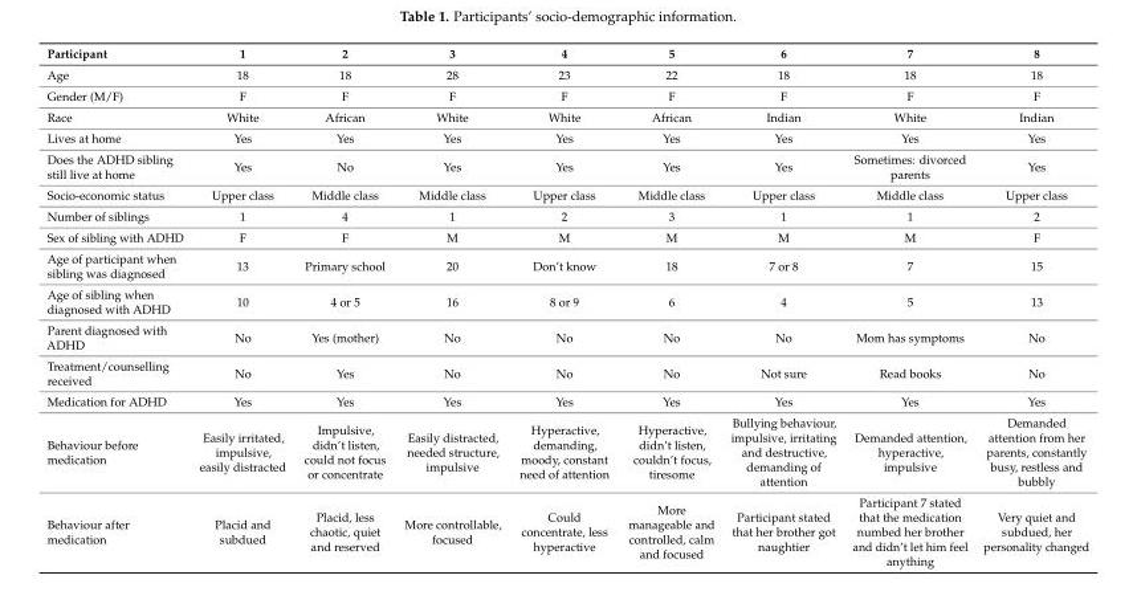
<table><thead><tr><td>Participant</td><td>1</td><td>2</td><td>3</td><td>4</td><td>5</td><td>6</td><td>7</td><td>8</td></tr></thead><tbody><tr><td>Age</td><td>18</td><td>18</td><td>28</td><td>23</td><td>22</td><td>18</td><td>18</td><td>18</td></tr><tr><td>Gender (M/F)</td><td>F</td><td>F</td><td>F</td><td>F</td><td>F</td><td>F</td><td>F</td><td>F</td></tr><tr><td>Race</td><td>White</td><td>African</td><td>White</td><td>White</td><td>African</td><td>Indian</td><td>White</td><td>Indian</td></tr><tr><td>Lives at home</td><td>Yes</td><td>Yes</td><td>Yes</td><td>Yes</td><td>Yes</td><td>Yes</td><td>Yes</td><td>Yes</td></tr><tr><td>Does the ADHD sibling still live at home</td><td>Yes</td><td>No</td><td>Yes</td><td>Yes</td><td>Yes</td><td>Yes</td><td>Sometimes: divorced parents</td><td>Yes</td></tr><tr><td>Socio-economic status</td><td>Upper class</td><td>Middle class</td><td>Middle class</td><td>Upper class</td><td>Middle class</td><td>Upper class</td><td>Middle class</td><td>Upper class</td></tr><tr><td>Number of siblings</td><td>1</td><td>4</td><td>1</td><td>2</td><td>3</td><td>1</td><td>1</td><td>2</td></tr><tr><td>Sex of sibling with ADHD</td><td>F</td><td>F</td><td>M</td><td>M</td><td>M</td><td>M</td><td>M</td><td>F</td></tr><tr><td>Age of participant when sibling was diagnosed</td><td>13</td><td>Primary school</td><td>20</td><td>Don’t know</td><td>18</td><td>7 or 8</td><td>7</td><td>15</td></tr><tr><td>Age of sibling when diagnosed with ADHD</td><td>10</td><td>4 or 5</td><td>16</td><td>8 or 9</td><td>6</td><td>4</td><td>5</td><td>13</td></tr><tr><td>Parent diagnosed with ADHD</td><td>No</td><td>Yes (mother)</td><td>No</td><td>No</td><td>No</td><td>No</td><td>Mom has symptoms</td><td>No</td></tr><tr><td>Treatment/counselling received</td><td>No</td><td>Yes</td><td>No</td><td>No</td><td>No</td><td>Not sure</td><td>Read books</td><td>No</td></tr><tr><td>Medication for ADHD</td><td>Yes</td><td>Yes</td><td>Yes</td><td>Yes</td><td>Yes</td><td>Yes</td><td>Yes</td><td>Yes</td></tr><tr><td>Behaviour before medication</td><td>Easily irritated, impulsive, easily distracted</td><td>Impulsive, didn’t listen, could not focus or concentrate</td><td>Easily distracted, needed structure, impulsive</td><td>Hyperactive, demanding, moody, constant need of attention</td><td>Hyperactive, didn’t listen, couldn’t focus, tiresome</td><td>Bullying behaviour, impulsive, irritating and destructive, demanding of attention</td><td>Demanded attention, hyperactive, impulsive</td><td>Demanded attention from her parents, constantly busy, restless and bubbly</td></tr><tr><td>Behaviour after medication</td><td>Placid and subdued</td><td>Placid, less chaotic, quiet and reserved</td><td>More controllable, focused</td><td>Could concentrate, less hyperactive</td><td>More manageable and controlled, calm and focused</td><td>Participant stated that her brother got naughtier</td><td>Participant 7 stated that the medication numbed her brother and didn’t let him feel anything</td><td>Very quiet and subdued, her personality changed</td></tr></tbody></table>